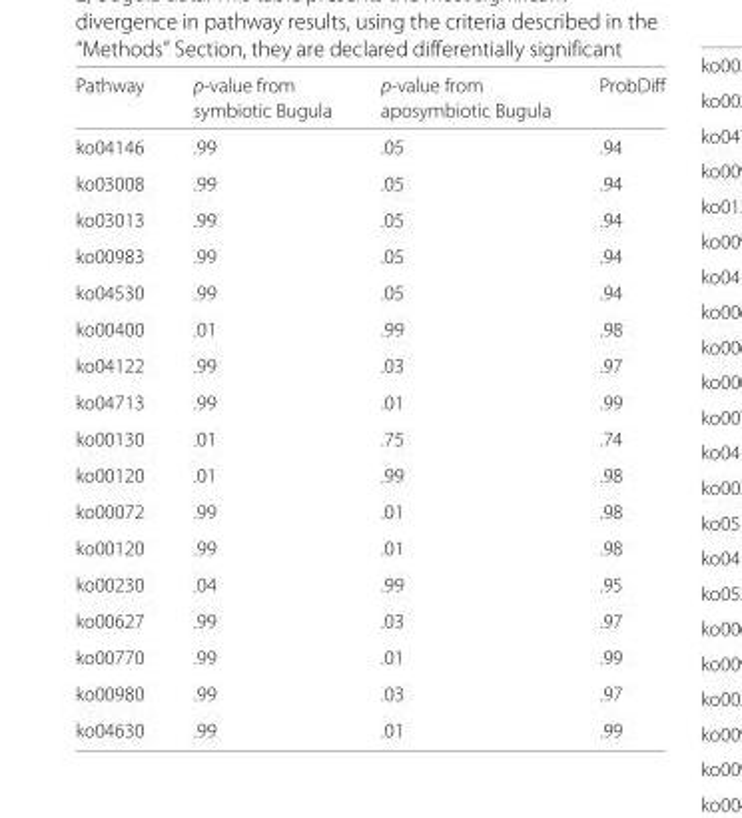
<table><thead><tr><td rowspan="2">Pathway</td><td rowspan="2">p-value from symbiotic Bugula</td><td rowspan="2">p-value from aposymbiotic Bugula</td><td rowspan="2">ProbDiff</td></tr><tr></tr></thead><tbody><tr><td>ko04146</td><td>.99</td><td>.05</td><td>.94</td></tr><tr><td>ko03008</td><td>.99</td><td>.05</td><td>.94</td></tr><tr><td>ko03013</td><td>.99</td><td>.05</td><td>.94</td></tr><tr><td>ko00983</td><td>.99</td><td>.05</td><td>.94</td></tr><tr><td>ko04530</td><td>.99</td><td>.05</td><td>.94</td></tr><tr><td>ko00400</td><td>.01</td><td>.99</td><td>.98</td></tr><tr><td>ko04122</td><td>.99</td><td>.03</td><td>.97</td></tr><tr><td>ko04713</td><td>.99</td><td>.01</td><td>.99</td></tr><tr><td>ko00130</td><td>.01</td><td>.75</td><td>.74</td></tr><tr><td>ko00120</td><td>.01</td><td>.99</td><td>.98</td></tr><tr><td>ko00072</td><td>.99</td><td>.01</td><td>.98</td></tr><tr><td>ko00120</td><td>.99</td><td>.01</td><td>.98</td></tr><tr><td>ko00230</td><td>.04</td><td>.99</td><td>.95</td></tr><tr><td>ko00627</td><td>.99</td><td>.03</td><td>.97</td></tr><tr><td>ko00770</td><td>.99</td><td>.01</td><td>.99</td></tr><tr><td>ko00980</td><td>.99</td><td>.03</td><td>.97</td></tr><tr><td>ko04630</td><td>.99</td><td>.01</td><td>.99</td></tr></tbody></table>